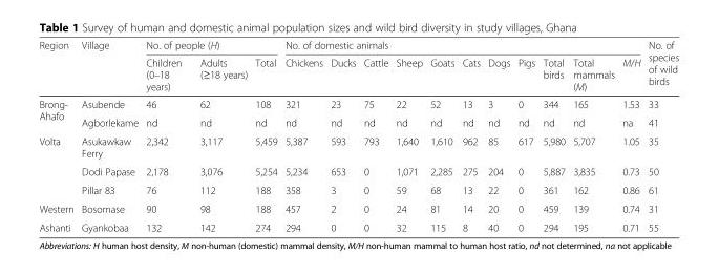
<table><thead><tr><td rowspan="2">Region</td><td rowspan="2">Village</td><td colspan="3">No. of people (H)</td><td colspan="11">No. of domestic animals</td><td rowspan="2">No. of species of wild birds</td></tr><tr><td>Children (0–18 years)</td><td>Adults (≥18 years)</td><td>Total</td><td>Chickens</td><td>Ducks</td><td>Cattle</td><td>Sheep</td><td>Goats</td><td>Cats</td><td>Dogs</td><td>Pigs</td><td>Total birds</td><td>Total mammals (M)</td><td>M/H</td></tr></thead><tbody><tr><td rowspan="2">Brong- Ahafo</td><td>Asubende</td><td>46</td><td>62</td><td>108</td><td>321</td><td>23</td><td>75</td><td>22</td><td>52</td><td>13</td><td>3</td><td>0</td><td>344</td><td>165</td><td>1.53</td><td>33</td></tr><tr><td>Agborlekame</td><td>nd</td><td>nd</td><td>nd</td><td>nd</td><td>nd</td><td>nd</td><td>nd</td><td>nd</td><td>nd</td><td>nd</td><td>nd</td><td>nd</td><td>nd</td><td>na</td><td>41</td></tr><tr><td rowspan="3">Volta</td><td>Asukawkaw Ferry</td><td>2,342</td><td>3,117</td><td>5,459</td><td>5,387</td><td>593</td><td>793</td><td>1,640</td><td>1,610</td><td>962</td><td>85</td><td>617</td><td>5,980</td><td>5,707</td><td>1.05</td><td>35</td></tr><tr><td>Dodi Papase</td><td>2,178</td><td>3,076</td><td>5,254</td><td>5,234</td><td>653</td><td>0</td><td>1,071</td><td>2,285</td><td>275</td><td>204</td><td>0</td><td>5,887</td><td>3,835</td><td>0.73</td><td>50</td></tr><tr><td>Pillar 83</td><td>76</td><td>112</td><td>188</td><td>358</td><td>3</td><td>0</td><td>59</td><td>68</td><td>13</td><td>22</td><td>0</td><td>361</td><td>162</td><td>0.86</td><td>61</td></tr><tr><td>Western</td><td>Bosomase</td><td>90</td><td>98</td><td>188</td><td>457</td><td>2</td><td>0</td><td>24</td><td>81</td><td>14</td><td>20</td><td>0</td><td>459</td><td>139</td><td>0.74</td><td>31</td></tr><tr><td>Ashanti</td><td>Gyankobaa</td><td>132</td><td>142</td><td>274</td><td>294</td><td>0</td><td>0</td><td>32</td><td>115</td><td>8</td><td>40</td><td>0</td><td>294</td><td>195</td><td>0.71</td><td>55</td></tr></tbody></table>